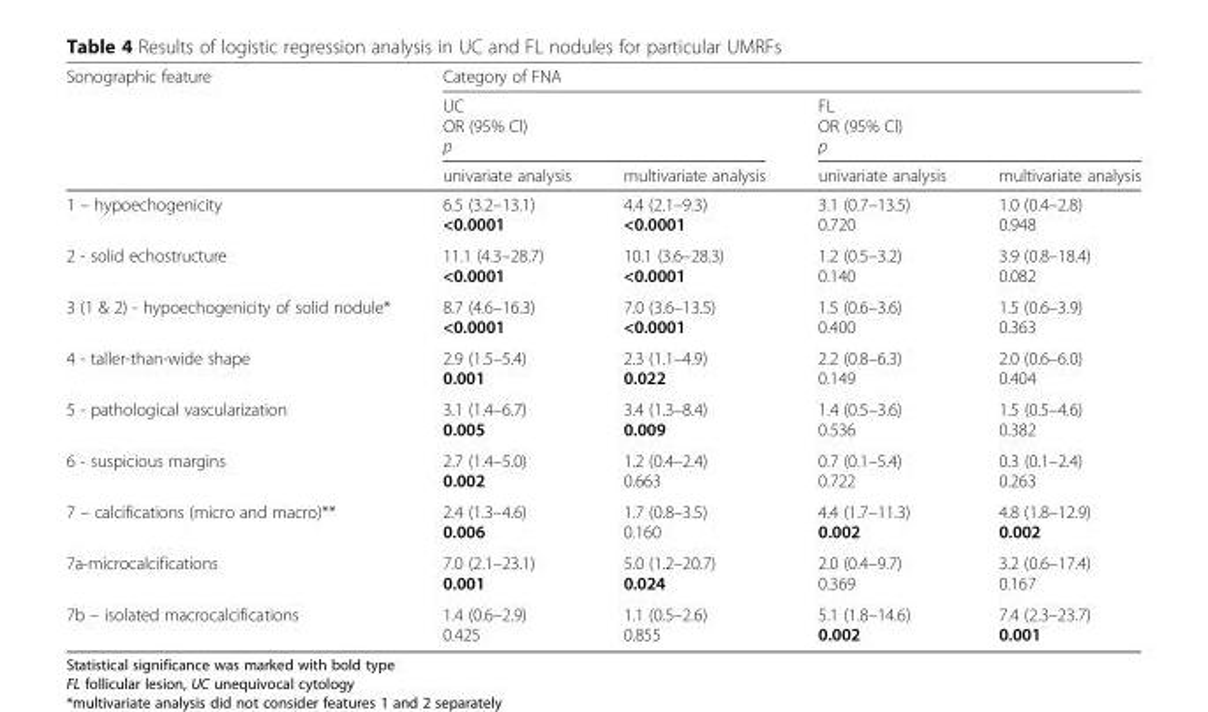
<table><thead><tr><td rowspan="3">Sonographic feature</td><td colspan="4">Category of FNA</td></tr><tr><td colspan="2">UC OR (95% Cl) p</td><td colspan="2">FL OR (95% Cl) p</td></tr><tr><td>univariate analysis</td><td>multivariate analysis</td><td>univariate analysis</td><td>multivariate analysis</td></tr></thead><tbody><tr><td>1 – hypoechogenicity</td><td>6.5 (3.2–13.1) &lt;0.0001</td><td>4.4 (2.1–9.3) &lt;0.0001</td><td>3.1 (0.7–13.5) 0.720</td><td>1.0 (0.4–2.8) 0.948</td></tr><tr><td>2 - solid echostructure</td><td>11.1 (4.3–28.7) &lt;0.0001</td><td>10.1 (3.6–28.3) &lt;0.0001</td><td>1.2 (0.5–3.2) 0.140</td><td>3.9 (0.8–18.4) 0.082</td></tr><tr><td>3 (1 &amp; 2) - hypoechogenicity of solid nodule*</td><td>8.7 (4.6–16.3) &lt;0.0001</td><td>7.0 (3.6–13.5) &lt;0.0001</td><td>1.5 (0.6–3.6) 0.400</td><td>1.5 (0.6–3.9) 0.363</td></tr><tr><td>4 - taller-than-wide shape</td><td>2.9 (1.5–5.4) 0.001</td><td>2.3 (1.1–4.9) 0.022</td><td>2.2 (0.8–6.3) 0.149</td><td>2.0 (0.6–6.0) 0.404</td></tr><tr><td>5 - pathological vascularization</td><td>3.1 (1.4–6.7) 0.005</td><td>3.4 (1.3–8.4) 0.009</td><td>1.4 (0.5–3.6) 0.536</td><td>1.5 (0.5–4.6) 0.382</td></tr><tr><td>6 - suspicious margins</td><td>2.7 (1.4–5.0) 0.002</td><td>1.2 (0.4–2.4) 0.663</td><td>0.7 (0.1–5.4) 0.722</td><td>0.3 (0.1–2.4) 0.263</td></tr><tr><td>7 – calcifications (micro and macro)**</td><td>2.4 (1.3–4.6) 0.006</td><td>1.7 (0.8–3.5) 0.160</td><td>4.4 (1.7–11.3) 0.002</td><td>4.8 (1.8–12.9) 0.002</td></tr><tr><td>7a-microcalcifications</td><td>7.0 (2.1–23.1) 0.001</td><td>5.0 (1.2–20.7) 0.024</td><td>2.0 (0.4–9.7) 0.369</td><td>3.2 (0.6–17.4) 0.167</td></tr><tr><td>7b – isolated macrocalcifications</td><td>1.4 (0.6–2.9) 0.425</td><td>1.1 (0.5–2.6) 0.855</td><td>5.1 (1.8–14.6) 0.002</td><td>7.4 (2.3–23.7) 0.001</td></tr></tbody></table>